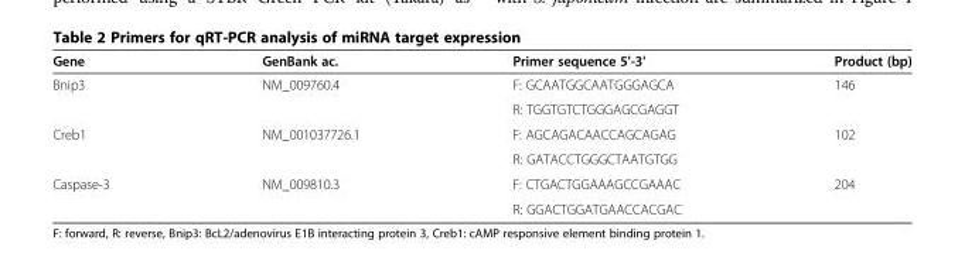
<table><thead><tr><td>Gene</td><td>GenBank ac.</td><td>Primer sequence 5&#x27;-3&#x27;</td><td>Product (bp)</td></tr></thead><tbody><tr><td rowspan="2">Bnip3</td><td>NM_009760.4</td><td>F: GCAATGGCAATGGGAGCA</td><td>146</td></tr><tr><td></td><td>R: TGGTGTCTGGGAGCGAGGT</td><td></td></tr><tr><td rowspan="2">Creb1</td><td>NM_001037726.1</td><td>F: AGCAGACAACCAGCAGAG</td><td>102</td></tr><tr><td></td><td>R: GATACCTGGGCTAATGTGG</td><td></td></tr><tr><td rowspan="2">Caspase-3</td><td>NM_009810.3</td><td>F: CTGACTGGAAAGCCGAAAC</td><td>204</td></tr><tr><td></td><td>R: GGACTGGATGAACCACGAC</td><td></td></tr></tbody></table>